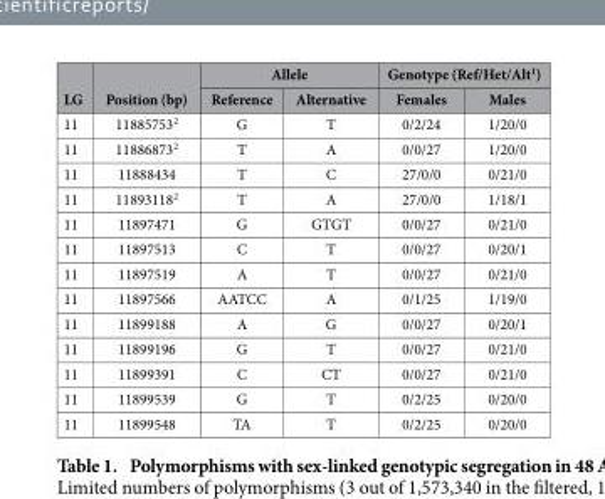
<table><thead><tr><td rowspan="2">LG</td><td rowspan="2">Position (bp)</td><td colspan="2">Allele</td><td colspan="2">Genotype (Ref/Het/Alt<sup>1</sup>)</td></tr><tr><td>Reference</td><td>Alternative</td><td>Females</td><td>Males</td></tr></thead><tbody><tr><td>11</td><td>11885753<sup>2</sup></td><td>G</td><td>T</td><td>0/2/24</td><td>1/20/0</td></tr><tr><td>11</td><td>11886873<sup>2</sup></td><td>T</td><td>A</td><td>0/0/27</td><td>1/20/0</td></tr><tr><td>11</td><td>11888434</td><td>T</td><td>C</td><td>27/0/0</td><td>0/21/0</td></tr><tr><td>11</td><td>11893118<sup>2</sup></td><td>T</td><td>A</td><td>27/0/0</td><td>1/18/1</td></tr><tr><td>11</td><td>11897471</td><td>G</td><td>GTGT</td><td>0/0/27</td><td>0/21/0</td></tr><tr><td>11</td><td>11897513</td><td>C</td><td>T</td><td>0/0/27</td><td>0/20/1</td></tr><tr><td>11</td><td>11897519</td><td>A</td><td>T</td><td>0/0/27</td><td>0/21/0</td></tr><tr><td>11</td><td>11897566</td><td>AATCC</td><td>A</td><td>0/1/25</td><td>1/19/0</td></tr><tr><td>11</td><td>11899188</td><td>A</td><td>G</td><td>0/0/27</td><td>0/20/1</td></tr><tr><td>11</td><td>11899196</td><td>G</td><td>T</td><td>0/0/27</td><td>0/21/0</td></tr><tr><td>11</td><td>11899391</td><td>C</td><td>CT</td><td>0/0/27</td><td>0/21/0</td></tr><tr><td>11</td><td>11899539</td><td>G</td><td>T</td><td>0/2/25</td><td>0/20/0</td></tr><tr><td>11</td><td>11899548</td><td>TA</td><td>T</td><td>0/2/25</td><td>0/20/0</td></tr></tbody></table>